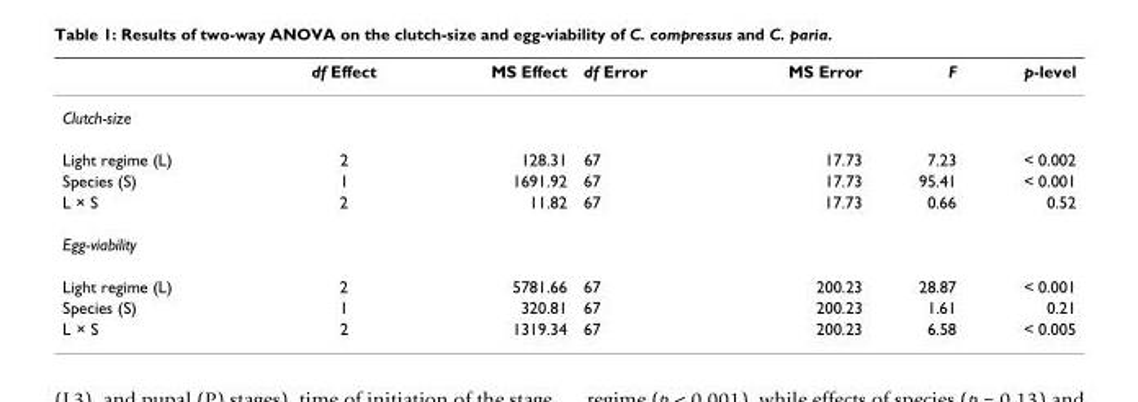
<table><thead><tr><td></td><td>df Effect</td><td>MS Effect</td><td>df Error</td><td>MS Error</td><td>F</td><td>p-level</td></tr></thead><tbody><tr><td colspan="7">Clutch-size</td></tr><tr><td>Light regime (L)</td><td>2</td><td>128.31</td><td>67</td><td>17.73</td><td>7.23</td><td>&lt; 0.002</td></tr><tr><td>Species (S)</td><td>1</td><td>1691.92</td><td>67</td><td>17.73</td><td>95.41</td><td>&lt; 0.001</td></tr><tr><td>L × S</td><td>2</td><td>11.82</td><td>67</td><td>17.73</td><td>0.66</td><td>0.52</td></tr><tr><td colspan="7">Egg-viability</td></tr><tr><td>Light regime (L)</td><td>2</td><td>5781.66</td><td>67</td><td>200.23</td><td>28.87</td><td>&lt; 0.001</td></tr><tr><td>Species (S)</td><td>1</td><td>320.81</td><td>67</td><td>200.23</td><td>1.61</td><td>0.21</td></tr><tr><td>L × S</td><td>2</td><td>1319.34</td><td>67</td><td>200.23</td><td>6.58</td><td>&lt; 0.005</td></tr></tbody></table>